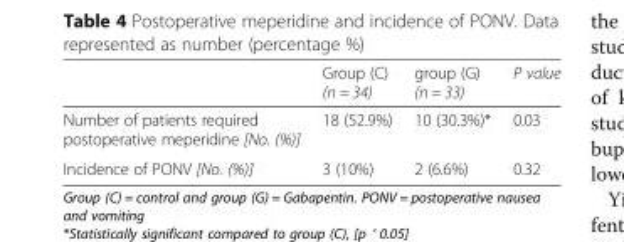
<table><thead><tr><td></td><td>Group (C) (n = 34)</td><td>group (G) (n = 33)</td><td>P value</td></tr></thead><tbody><tr><td>Number of patients required postoperative meperidine [No. (%)]</td><td>18 (52.9%)</td><td>10 (30.3%)*</td><td>0.03</td></tr><tr><td>Incidence of PONV [No. (%)]</td><td>3 (10%)</td><td>2 (6.6%)</td><td>0.32</td></tr></tbody></table>